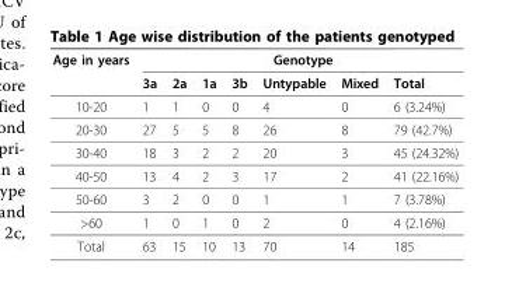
<table><thead><tr><td rowspan="2">Age in years</td><td colspan="7">Genotype</td></tr><tr><td>3a</td><td>2a</td><td>1a</td><td>3b</td><td>Untypable</td><td>Mixed</td><td>Total</td></tr></thead><tbody><tr><td>10-20</td><td>1</td><td>1</td><td>0</td><td>0</td><td>4</td><td>0</td><td>6 (3.24%)</td></tr><tr><td>20-30</td><td>27</td><td>5</td><td>5</td><td>8</td><td>26</td><td>8</td><td>79 (42.7%)</td></tr><tr><td>30-40</td><td>18</td><td>3</td><td>2</td><td>2</td><td>20</td><td>3</td><td>45 (24.32%)</td></tr><tr><td>40-50</td><td>13</td><td>4</td><td>2</td><td>3</td><td>17</td><td>2</td><td>41 (22.16%)</td></tr><tr><td>50-60</td><td>3</td><td>2</td><td>0</td><td>0</td><td>1</td><td>1</td><td>7 (3.78%)</td></tr><tr><td>&gt;60</td><td>1</td><td>0</td><td>1</td><td>0</td><td>2</td><td>0</td><td>4 (2.16%)</td></tr><tr><td>Total</td><td>63</td><td>15</td><td>10</td><td>13</td><td>70</td><td>14</td><td>185</td></tr></tbody></table>